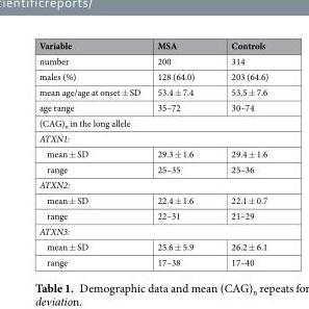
<table><thead><tr><td>Variable</td><td>MSA</td><td>Controls</td></tr></thead><tbody><tr><td>number</td><td>200</td><td>314</td></tr><tr><td>males (%)</td><td>128 (64.0)</td><td>203 (64.6)</td></tr><tr><td>mean age/age at onset ± SD</td><td>53.4 ± 7.4</td><td>53.5 ± 7.6</td></tr><tr><td>age range</td><td>35–72</td><td>30–74</td></tr><tr><td colspan="3">(CAG)<sub>n</sub> in the long allele</td></tr><tr><td colspan="3">ATXN1:</td></tr><tr><td>mean ± SD</td><td>29.3 ± 1.6</td><td>29.4 ± 1.6</td></tr><tr><td>range</td><td>25–35</td><td>25–36</td></tr><tr><td colspan="3">ATXN2:</td></tr><tr><td>mean ± SD</td><td>22.4 ± 1.6</td><td>22.1 ± 0.7</td></tr><tr><td>range</td><td>22–31</td><td>21–29</td></tr><tr><td colspan="3">ATXN3:</td></tr><tr><td>mean ± SD</td><td>25.6 ± 5.9</td><td>26.2 ± 6.1</td></tr><tr><td>range</td><td>17–38</td><td>17–40</td></tr></tbody></table>